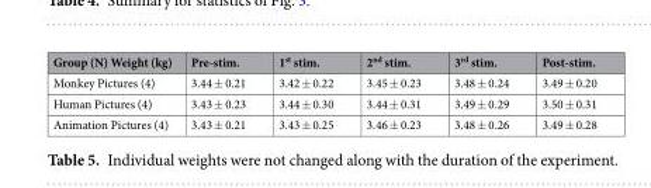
<table><thead><tr><td>Group (N) Weight (kg)</td><td>Pre-stim.</td><td>1<sup>st</sup> stim.</td><td>2<sup>nd</sup> stim.</td><td>3<sup>rd</sup> stim.</td><td>Post-stim.</td></tr></thead><tbody><tr><td>Monkey Pictures (4)</td><td>3.44 ± 0.21</td><td>3.42 ± 0.22</td><td>3.45 ± 0.23</td><td>3.48 ± 0.24</td><td>3.49 ± 0.20</td></tr><tr><td>Human Pictures (4)</td><td>3.43 ± 0.23</td><td>3.44 ± 0.30</td><td>3.44 ± 0.31</td><td>3.49 ± 0.29</td><td>3.50 ± 0.31</td></tr><tr><td>Animation Pictures (4)</td><td>3.43 ± 0.21</td><td>3.43 ± 0.25</td><td>3.46 ± 0.23</td><td>3.48 ± 0.26</td><td>3.49 ± 0.28</td></tr></tbody></table>